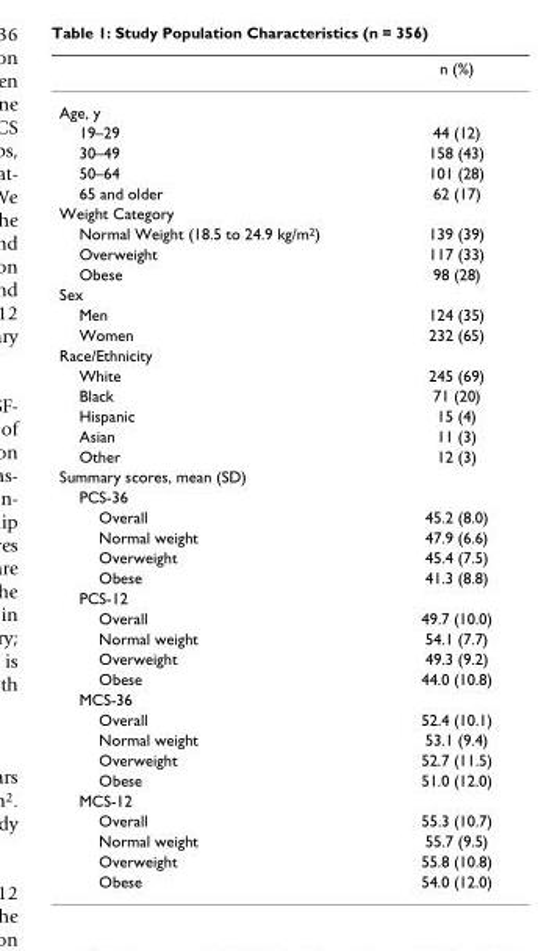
<table><thead><tr><td></td><td>n (%)</td></tr></thead><tbody><tr><td colspan="2">Age, y</td></tr><tr><td>19–29</td><td>44 (12)</td></tr><tr><td>30–49</td><td>158 (43)</td></tr><tr><td>50–64</td><td>101 (28)</td></tr><tr><td>65 and older</td><td>62 (17)</td></tr><tr><td colspan="2">Weight Category</td></tr><tr><td>Normal Weight (18.5 to 24.9 kg/m<sup>2</sup>)</td><td>139 (39)</td></tr><tr><td>Overweight</td><td>117 (33)</td></tr><tr><td>Obese</td><td>98 (28)</td></tr><tr><td colspan="2">Sex</td></tr><tr><td>Men</td><td>124 (35)</td></tr><tr><td>Women</td><td>232 (65)</td></tr><tr><td colspan="2">Race/Ethnicity</td></tr><tr><td>White</td><td>245 (69)</td></tr><tr><td>Black</td><td>71 (20)</td></tr><tr><td>Hispanic</td><td>15 (4)</td></tr><tr><td>Asian</td><td>11 (3)</td></tr><tr><td>Other</td><td>12 (3)</td></tr><tr><td colspan="2">Summary scores, mean (SD)</td></tr><tr><td colspan="2">PCS-36</td></tr><tr><td>Overall</td><td>45.2 (8.0)</td></tr><tr><td>Normal weight</td><td>47.9 (6.6)</td></tr><tr><td>Overweight</td><td>45.4 (7.5)</td></tr><tr><td>Obese</td><td>41.3 (8.8)</td></tr><tr><td colspan="2">PCS-12</td></tr><tr><td>Overall</td><td>49.7 (10.0)</td></tr><tr><td>Normal weight</td><td>54.1 (7.7)</td></tr><tr><td>Overweight</td><td>49.3 (9.2)</td></tr><tr><td>Obese</td><td>44.0 (10.8)</td></tr><tr><td colspan="2">MCS-36</td></tr><tr><td>Overall</td><td>52.4 (10.1)</td></tr><tr><td>Normal weight</td><td>53.1 (9.4)</td></tr><tr><td>Overweight</td><td>52.7 (11.5)</td></tr><tr><td>Obese</td><td>51.0 (12.0)</td></tr><tr><td colspan="2">MCS-12</td></tr><tr><td>Overall</td><td>55.3 (10.7)</td></tr><tr><td>Normal weight</td><td>55.7 (9.5)</td></tr><tr><td>Overweight</td><td>55.8 (10.8)</td></tr><tr><td>Obese</td><td>54.0 (12.0)</td></tr></tbody></table>